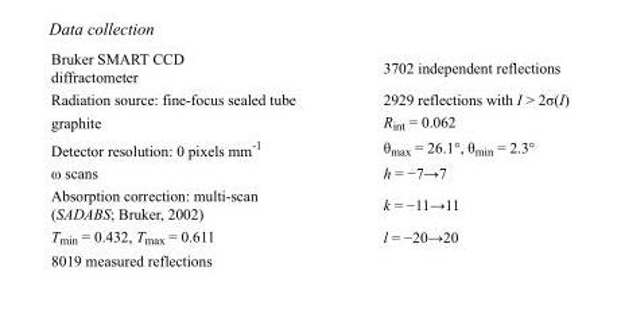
<table><tbody><tr><td>Bruker SMART CCD diffractometer</td><td>3702 independent reflections</td></tr><tr><td>Radiation source: fine-focus sealed tube</td><td>2929 reflections with I &gt; 2σ(I)</td></tr><tr><td>graphite</td><td>R<sub>int</sub> = 0.062</td></tr><tr><td>Detector resolution: 0 pixels mm<sup>-1</sup></td><td>θ<sub>max</sub> = 26.1°, θ<sub>min</sub> = 2.3°</td></tr><tr><td>ω scans</td><td>h = −7→7</td></tr><tr><td>Absorption correction: multi-scan (SADABS; Bruker, 2002)</td><td>k = −11→11</td></tr><tr><td>T<sub>min</sub> = 0.432, T<sub>max</sub> = 0.611</td><td>l = −20→20</td></tr><tr><td>8019 measured reflections</td><td></td></tr></tbody></table>